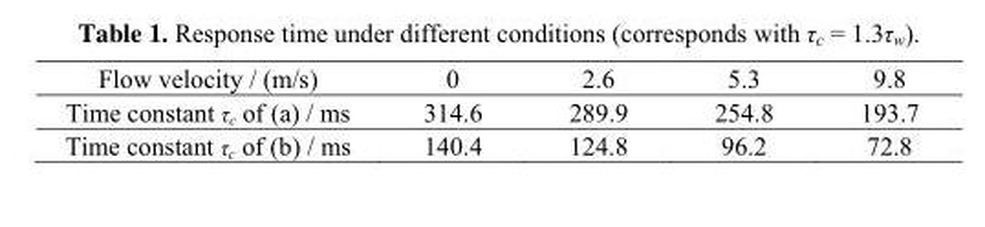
<table><tbody><tr><td>Flow velocity / (m/s)</td><td>0</td><td>2.6</td><td>5.3</td><td>9.8</td></tr><tr><td>Time constant τ<sub>c</sub> of (a) / ms</td><td>314.6</td><td>289.9</td><td>254.8</td><td>193.7</td></tr><tr><td>Time constant τ<sub>c</sub> of (b) / ms</td><td>140.4</td><td>124.8</td><td>96.2</td><td>72.8</td></tr></tbody></table>